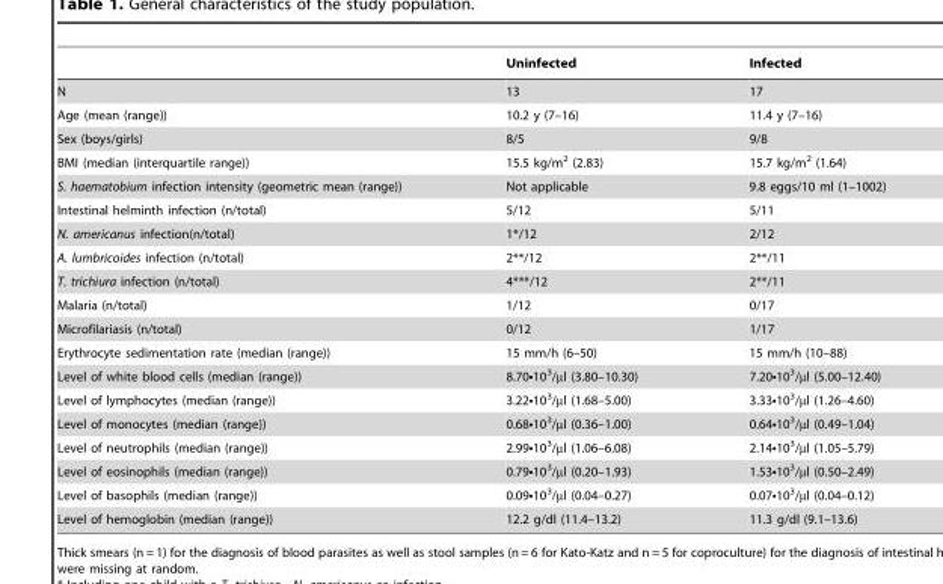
<table><thead><tr><td></td><td>Uninfected</td><td>Infected</td></tr></thead><tbody><tr><td>N</td><td>13</td><td>17</td></tr><tr><td>Age (mean (range))</td><td>10.2 y (7–16)</td><td>11.4 y (7–16)</td></tr><tr><td>Sex (boys/girls)</td><td>8/5</td><td>9/8</td></tr><tr><td>BMI (median (interquartile range))</td><td>15.5 kg/m<sup>2</sup> (2.83)</td><td>15.7 kg/m<sup>2</sup> (1.64)</td></tr><tr><td>S. haematobium infection intensity (geometric mean (range))</td><td>Not applicable</td><td>9.8 eggs/10 ml (1–1002)</td></tr><tr><td>Intestinal helminth infection (n/total)</td><td>5/12</td><td>5/11</td></tr><tr><td>N. americanus infection(n/total)</td><td>1*/12</td><td>2/12</td></tr><tr><td>A. lumbricoides infection (n/total)</td><td>2**/12</td><td>2**/11</td></tr><tr><td>T. trichiura infection (n/total)</td><td>4***/12</td><td>2**/11</td></tr><tr><td>Malaria (n/total)</td><td>1/12</td><td>0/17</td></tr><tr><td>Microfilariasis (n/total)</td><td>0/12</td><td>1/17</td></tr><tr><td>Erythrocyte sedimentation rate (median (range))</td><td>15 mm/h (6–50)</td><td>15 mm/h (10–88)</td></tr><tr><td>Level of white blood cells (median (range))</td><td>8.70•10<sup>3</sup>/µl (3.80–10.30)</td><td>7.20•10<sup>3</sup>/µl (5.00–12.40)</td></tr><tr><td>Level of lymphocytes (median (range))</td><td>3.22•10<sup>3</sup>/µl (1.68–5.00)</td><td>3.33•10<sup>3</sup>/µl (1.26–4.60)</td></tr><tr><td>Level of monocytes (median (range))</td><td>0.68•10<sup>3</sup>/µl (0.36–1.00)</td><td>0.64•10<sup>3</sup>/µl (0.49–1.04)</td></tr><tr><td>Level of neutrophils (median (range))</td><td>2.99•10<sup>3</sup>/µl (1.06–6.08)</td><td>2.14•10<sup>3</sup>/µl (1.05–5.79)</td></tr><tr><td>Level of eosinophils (median (range))</td><td>0.79•10<sup>3</sup>/µl (0.20–1.93)</td><td>1.53•10<sup>3</sup>/µl (0.50–2.49)</td></tr><tr><td>Level of basophils (median (range))</td><td>0.09•10<sup>3</sup>/µl (0.04–0.27)</td><td>0.07•10<sup>3</sup>/µl (0.04–0.12)</td></tr><tr><td>Level of hemoglobin (median (range))</td><td>12.2 g/dl (11.4–13.2)</td><td>11.3 g/dl (9.1–13.6)</td></tr></tbody></table>